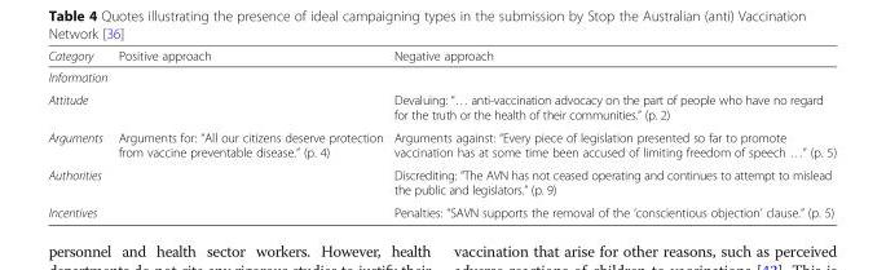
<table><thead><tr><td>Category</td><td>Positive approach</td><td>Negative approach</td></tr></thead><tbody><tr><td colspan="3">Information</td></tr><tr><td>Attitude</td><td></td><td>Devaluing: “… anti-vaccination advocacy on the part of people who have no regard for the truth or the health of their communities.” (p. 2)</td></tr><tr><td>Arguments</td><td>Arguments for: “All our citizens deserve protection from vaccine preventable disease.” (p. 4)</td><td>Arguments against: “Every piece of legislation presented so far to promote vaccination has at some time been accused of limiting freedom of speech …” (p. 5)</td></tr><tr><td>Authorities</td><td></td><td>Discrediting: “The AVN has not ceased operating and continues to attempt to mislead the public and legislators.” (p. 9)</td></tr><tr><td>Incentives</td><td></td><td>Penalties: “SAVN supports the removal of the ‘conscientious objection’ clause.” (p. 5)</td></tr></tbody></table>